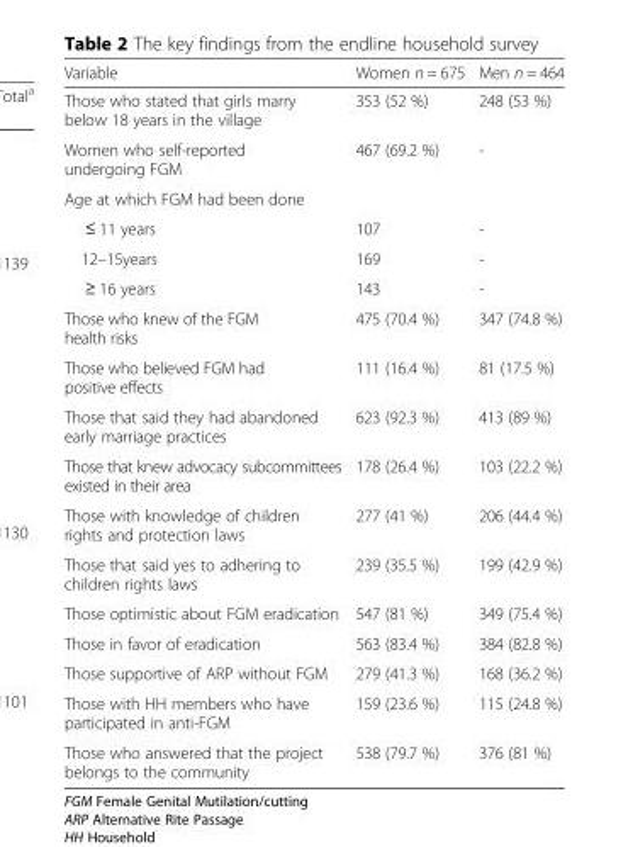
<table><thead><tr><td>Variable</td><td>Women n = 675</td><td>Men n = 464</td></tr></thead><tbody><tr><td>Those who stated that girls marry below 18 years in the village</td><td>353 (52 %)</td><td>248 (53 %)</td></tr><tr><td>Women who self-reported undergoing FGM</td><td>467 (69.2 %)</td><td>-</td></tr><tr><td colspan="3">Age at which FGM had been done</td></tr><tr><td>≤ 11 years</td><td>107</td><td>-</td></tr><tr><td>12–15years</td><td>169</td><td>-</td></tr><tr><td>≥ 16 years</td><td>143</td><td>-</td></tr><tr><td>Those who knew of the FGM health risks</td><td>475 (70.4 %)</td><td>347 (74.8 %)</td></tr><tr><td>Those who believed FGM had positive effects</td><td>111 (16.4 %)</td><td>81 (17.5 %)</td></tr><tr><td>Those that said they had abandoned early marriage practices</td><td>623 (92.3 %)</td><td>413 (89 %)</td></tr><tr><td>Those that knew advocacy subcommittees existed in their area</td><td>178 (26.4 %)</td><td>103 (22.2 %)</td></tr><tr><td>Those with knowledge of children rights and protection laws</td><td>277 (41 %)</td><td>206 (44.4 %)</td></tr><tr><td>Those that said yes to adhering to children rights laws</td><td>239 (35.5 %)</td><td>199 (42.9 %)</td></tr><tr><td>Those optimistic about FGM eradication</td><td>547 (81 %)</td><td>349 (75.4 %)</td></tr><tr><td>Those in favor of eradication</td><td>563 (83.4 %)</td><td>384 (82.8 %)</td></tr><tr><td>Those supportive of ARP without FGM</td><td>279 (41.3 %)</td><td>168 (36.2 %)</td></tr><tr><td>Those with HH members who have participated in anti-FGM</td><td>159 (23.6 %)</td><td>115 (24.8 %)</td></tr><tr><td>Those who answered that the project belongs to the community</td><td>538 (79.7 %)</td><td>376 (81 %)</td></tr></tbody></table>